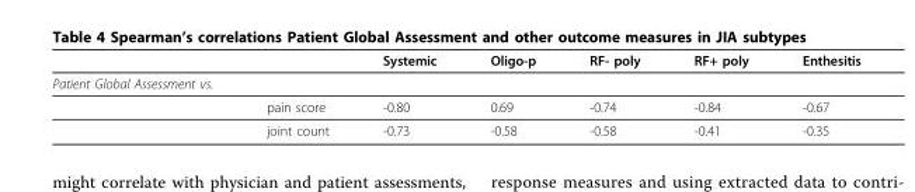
<table><thead><tr><td></td><td></td><td>Systemic</td><td>Oligo-p</td><td>RF- poly</td><td>RF+ poly</td><td>Enthesitis</td></tr></thead><tbody><tr><td colspan="7">Patient Global Assessment vs.</td></tr><tr><td></td><td>pain score</td><td>-0.80</td><td>0.69</td><td>-0.74</td><td>-0.84</td><td>-0.67</td></tr><tr><td></td><td>joint count</td><td>-0.73</td><td>-0.58</td><td>-0.58</td><td>-0.41</td><td>-0.35</td></tr></tbody></table>